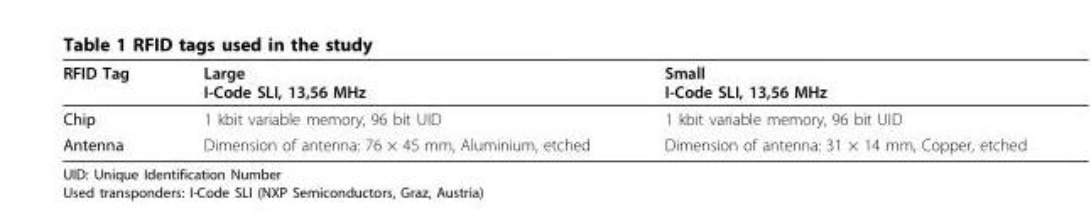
<table><thead><tr><td>RFID Tag</td><td>Large I-Code SLI, 13,56 MHz</td><td>Small I-Code SLI, 13,56 MHz</td></tr></thead><tbody><tr><td>Chip</td><td>1 kbit variable memory, 96 bit UID</td><td>1 kbit variable memory, 96 bit UID</td></tr><tr><td>Antenna</td><td>Dimension of antenna: 76 × 45 mm, Aluminium, etched</td><td>Dimension of antenna: 31 × 14 mm, Copper, etched</td></tr></tbody></table>